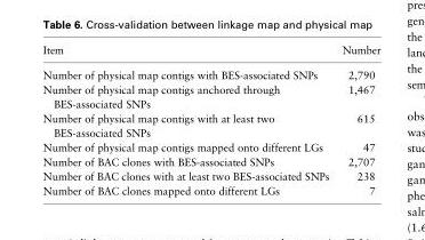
<table><thead><tr><td>Item</td><td>Number</td></tr></thead><tbody><tr><td>Number of physical map contigs with BES-associated SNPs</td><td>2,790</td></tr><tr><td>Number of physical map contigs anchored through BES-associated SNPs</td><td>1,467</td></tr><tr><td>Number of physical map contigs with at least two BES-associated SNPs</td><td>615</td></tr><tr><td>Number of physical map contigs mapped onto different LGs</td><td>47</td></tr><tr><td>Number of BAC clones with BES-associated SNPs</td><td>2,707</td></tr><tr><td>Number of BAC clones with at least two BES-associated SNPs</td><td>238</td></tr><tr><td>Number of BAC clones mapped onto different LGs</td><td>7</td></tr></tbody></table>